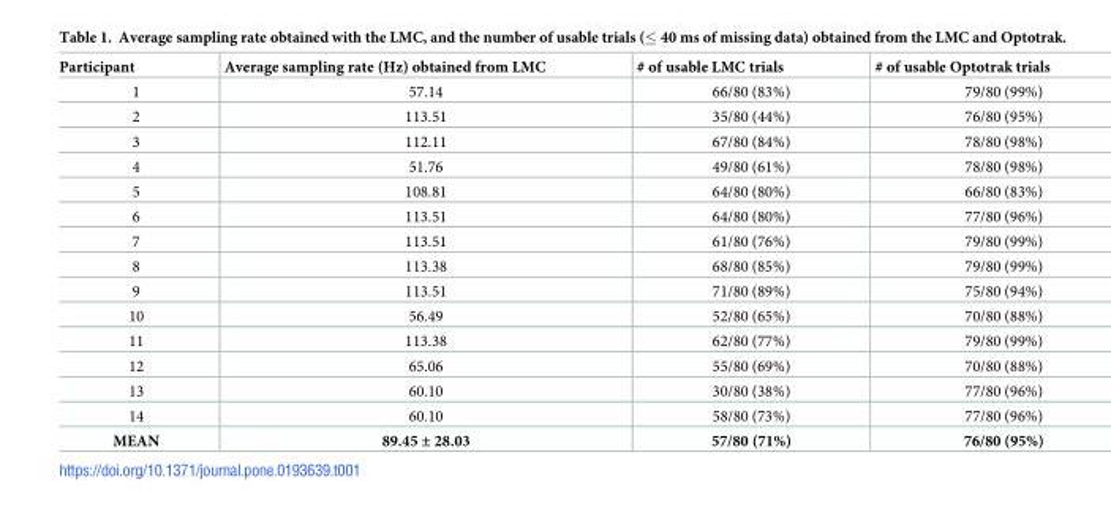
<table><thead><tr><td>Participant</td><td>Average sampling rate (Hz) obtained from LMC</td><td># of usable LMC trials</td><td># of usable Optotrak trials</td></tr></thead><tbody><tr><td>1</td><td>57.14</td><td>66/80 (83%)</td><td>79/80 (99%)</td></tr><tr><td>2</td><td>113.51</td><td>35/80 (44%)</td><td>76/80 (95%)</td></tr><tr><td>3</td><td>112.11</td><td>67/80 (84%)</td><td>78/80 (98%)</td></tr><tr><td>4</td><td>51.76</td><td>49/80 (61%)</td><td>78/80 (98%)</td></tr><tr><td>5</td><td>108.81</td><td>64/80 (80%)</td><td>66/80 (83%)</td></tr><tr><td>6</td><td>113.51</td><td>64/80 (80%)</td><td>77/80 (96%)</td></tr><tr><td>7</td><td>113.51</td><td>61/80 (76%)</td><td>79/80 (99%)</td></tr><tr><td>8</td><td>113.38</td><td>68/80 (85%)</td><td>79/80 (99%)</td></tr><tr><td>9</td><td>113.51</td><td>71/80 (89%)</td><td>75/80 (94%)</td></tr><tr><td>10</td><td>56.49</td><td>52/80 (65%)</td><td>70/80 (88%)</td></tr><tr><td>11</td><td>113.38</td><td>62/80 (77%)</td><td>79/80 (99%)</td></tr><tr><td>12</td><td>65.06</td><td>55/80 (69%)</td><td>70/80 (88%)</td></tr><tr><td>13</td><td>60.10</td><td>30/80 (38%)</td><td>77/80 (96%)</td></tr><tr><td>14</td><td>60.10</td><td>58/80 (73%)</td><td>77/80 (96%)</td></tr><tr><td>MEAN</td><td>89.45 ± 28.03</td><td>57/80 (71%)</td><td>76/80 (95%)</td></tr></tbody></table>